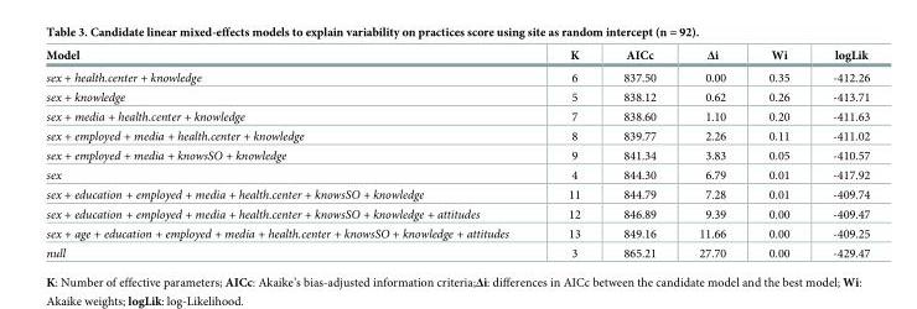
<table><thead><tr><td>Model</td><td>K</td><td>AICc</td><td>Δi</td><td>Wi</td><td>logLik</td></tr></thead><tbody><tr><td>sex + health.center + knowledge</td><td>6</td><td>837.50</td><td>0.00</td><td>0.35</td><td>-412.26</td></tr><tr><td>sex + knowledge</td><td>5</td><td>838.12</td><td>0.62</td><td>0.26</td><td>-413.71</td></tr><tr><td>sex + media + health.center + knowledge</td><td>7</td><td>838.60</td><td>1.10</td><td>0.20</td><td>-411.63</td></tr><tr><td>sex + employed + media + health.center + knowledge</td><td>8</td><td>839.77</td><td>2.26</td><td>0.11</td><td>-411.02</td></tr><tr><td>sex + employed + media + knowsSO + knowledge</td><td>9</td><td>841.34</td><td>3.83</td><td>0.05</td><td>-410.57</td></tr><tr><td>sex</td><td>4</td><td>844.30</td><td>6.79</td><td>0.01</td><td>-417.92</td></tr><tr><td>sex + education + employed + media + health.center + knowsSO + knowledge</td><td>11</td><td>844.79</td><td>7.28</td><td>0.01</td><td>-409.74</td></tr><tr><td>sex + education + employed + media + health.center + knowsSO + knowledge + attitudes</td><td>12</td><td>846.89</td><td>9.39</td><td>0.00</td><td>-409.47</td></tr><tr><td>sex + age + education + employed + media + health.center + knowsSO + knowledge + attitudes</td><td>13</td><td>849.16</td><td>11.66</td><td>0.00</td><td>-409.25</td></tr><tr><td>null</td><td>3</td><td>865.21</td><td>27.70</td><td>0.00</td><td>-429.47</td></tr></tbody></table>